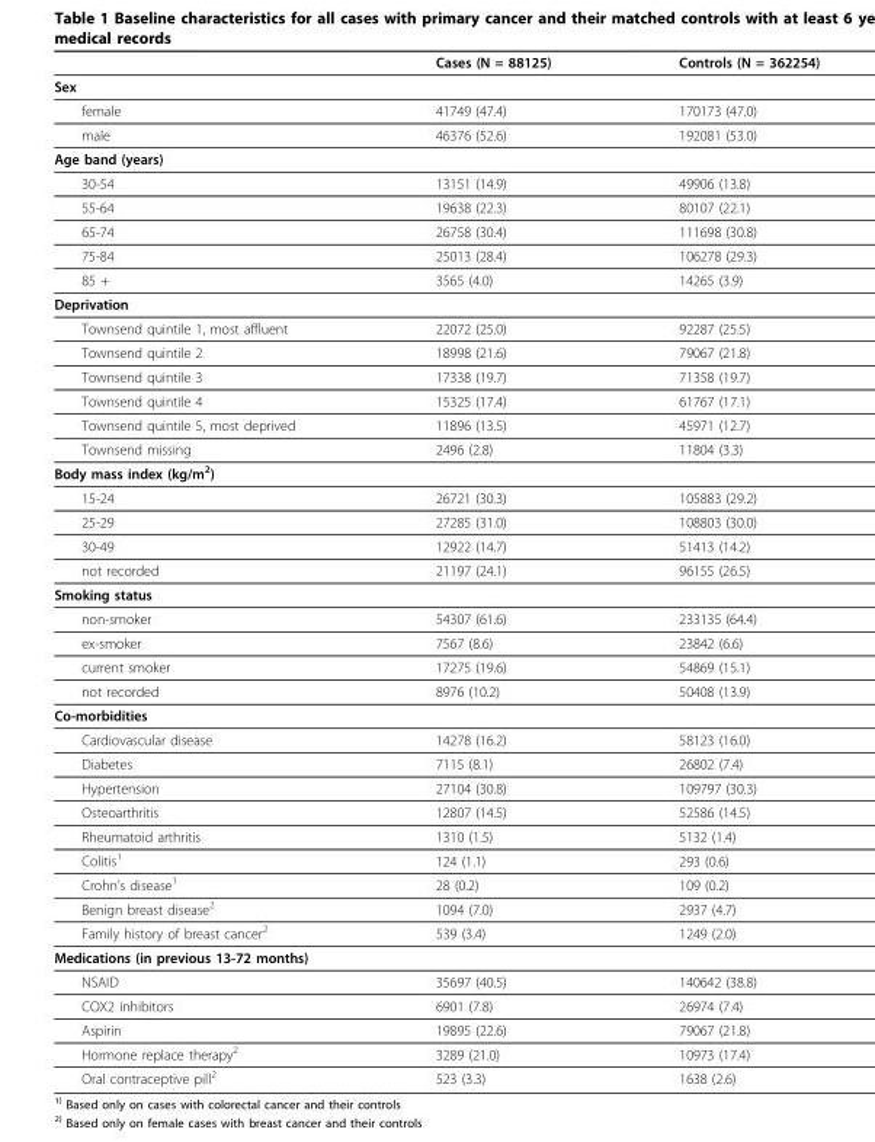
<table><thead><tr><td></td><td>Cases (N = 88125)</td><td>Controls (N = 362254)</td></tr></thead><tbody><tr><td colspan="3">Sex</td></tr><tr><td>female</td><td>41749 (47.4)</td><td>170173 (47.0)</td></tr><tr><td>male</td><td>46376 (52.6)</td><td>192081 (53.0)</td></tr><tr><td colspan="3">Age band (years)</td></tr><tr><td>30-54</td><td>13151 (14.9)</td><td>49906 (13.8)</td></tr><tr><td>55-64</td><td>19638 (22.3)</td><td>80107 (22.1)</td></tr><tr><td>65-74</td><td>26758 (30.4)</td><td>111698 (30.8)</td></tr><tr><td>75-84</td><td>25013 (28.4)</td><td>106278 (29.3)</td></tr><tr><td>85 +</td><td>3565 (4.0)</td><td>14265 (3.9)</td></tr><tr><td colspan="3">Deprivation</td></tr><tr><td>Townsend quintile 1, most affluent</td><td>22072 (25.0)</td><td>92287 (25.5)</td></tr><tr><td>Townsend quintile 2</td><td>18998 (21.6)</td><td>79067 (21.8)</td></tr><tr><td>Townsend quintile 3</td><td>17338 (19.7)</td><td>71358 (19.7)</td></tr><tr><td>Townsend quintile 4</td><td>15325 (17.4)</td><td>61767 (17.1)</td></tr><tr><td>Townsend quintile 5, most deprived</td><td>11896 (13.5)</td><td>45971 (12.7)</td></tr><tr><td>Townsend missing</td><td>2496 (2.8)</td><td>11804 (3.3)</td></tr><tr><td colspan="3">Body mass index (kg/m<sup>2</sup>)</td></tr><tr><td>15-24</td><td>26721 (30.3)</td><td>105883 (29.2)</td></tr><tr><td>25-29</td><td>27285 (31.0)</td><td>108803 (30.0)</td></tr><tr><td>30-49</td><td>12922 (14.7)</td><td>51413 (14.2)</td></tr><tr><td>not recorded</td><td>21197 (24.1)</td><td>96155 (26.5)</td></tr><tr><td colspan="3">Smoking status</td></tr><tr><td>non-smoker</td><td>54307 (61.6)</td><td>233135 (64.4)</td></tr><tr><td>ex-smoker</td><td>7567 (8.6)</td><td>23842 (6.6)</td></tr><tr><td>current smoker</td><td>17275 (19.6)</td><td>54869 (15.1)</td></tr><tr><td>not recorded</td><td>8976 (10.2)</td><td>50408 (13.9)</td></tr><tr><td colspan="3">Co-morbidities</td></tr><tr><td>Cardiovascular disease</td><td>14278 (16.2)</td><td>58123 (16.0)</td></tr><tr><td>Diabetes</td><td>7115 (8.1)</td><td>26802 (7.4)</td></tr><tr><td>Hypertension</td><td>27104 (30.8)</td><td>109797 (30.3)</td></tr><tr><td>Osteoarthritis</td><td>12807 (14.5)</td><td>52586 (14.5)</td></tr><tr><td>Rheumatoid arthritis</td><td>1310 (1.5)</td><td>5132 (1.4)</td></tr><tr><td>Colitis<sup>1</sup></td><td>124 (1.1)</td><td>293 (0.6)</td></tr><tr><td>Crohn’s disease<sup>1</sup></td><td>28 (0.2)</td><td>109 (0.2)</td></tr><tr><td>Benign breast disease<sup>2</sup></td><td>1094 (7.0)</td><td>2937 (4.7)</td></tr><tr><td>Family history of breast cancer<sup>2</sup></td><td>539 (3.4)</td><td>1249 (2.0)</td></tr><tr><td colspan="3">Medications (in previous 13-72 months)</td></tr><tr><td>NSAID</td><td>35697 (40.5)</td><td>140642 (38.8)</td></tr><tr><td>COX2 inhibitors</td><td>6901 (7.8)</td><td>26974 (7.4)</td></tr><tr><td>Aspirin</td><td>19895 (22.6)</td><td>79067 (21.8)</td></tr><tr><td>Hormone replace therapy<sup>2</sup></td><td>3289 (21.0)</td><td>10973 (17.4)</td></tr><tr><td>Oral contraceptive pill<sup>2</sup></td><td>523 (3.3)</td><td>1638 (2.6)</td></tr></tbody></table>